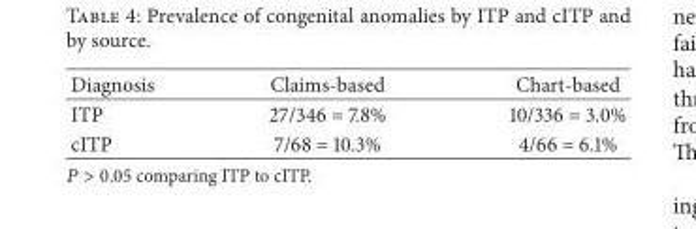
<table><thead><tr><td>Diagnosis</td><td>Claims-based</td><td>Chart-based</td></tr></thead><tbody><tr><td>ITP</td><td>27/346 = 7.8%</td><td>10/336 = 3.0%</td></tr><tr><td>cITP</td><td>7/68 = 10.3%</td><td>4/66 = 6.1%</td></tr></tbody></table>